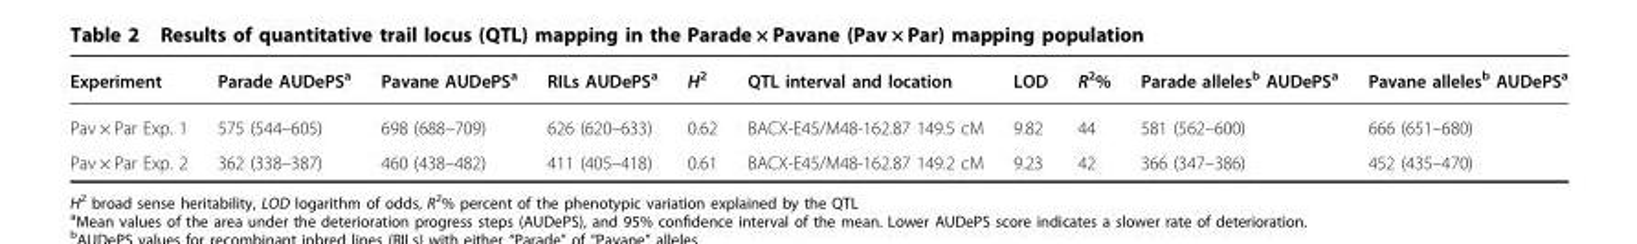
<table><thead><tr><td>Experiment</td><td>Parade AUDePS<sup>a</sup></td><td>Pavane AUDePS<sup>a</sup></td><td>RILs AUDePS<sup>a</sup></td><td>H<sup>2</sup></td><td>QTL interval and location</td><td>LOD</td><td>R<sup>2</sup>%</td><td>Parade alleles<sup>b</sup> AUDePS<sup>a</sup></td><td>Pavane alleles<sup>b</sup> AUDePS<sup>a</sup></td></tr></thead><tbody><tr><td>Pav × Par Exp. 1</td><td>575 (544–605)</td><td>698 (688–709)</td><td>626 (620–633)</td><td>0.62</td><td>BACX-E45/M48-162.87 149.5 cM</td><td>9.82</td><td>44</td><td>581 (562–600)</td><td>666 (651–680)</td></tr><tr><td>Pav × Par Exp. 2</td><td>362 (338–387)</td><td>460 (438–482)</td><td>411 (405–418)</td><td>0.61</td><td>BACX-E45/M48-162.87 149.2 cM</td><td>9.23</td><td>42</td><td>366 (347–386)</td><td>452 (435–470)</td></tr></tbody></table>